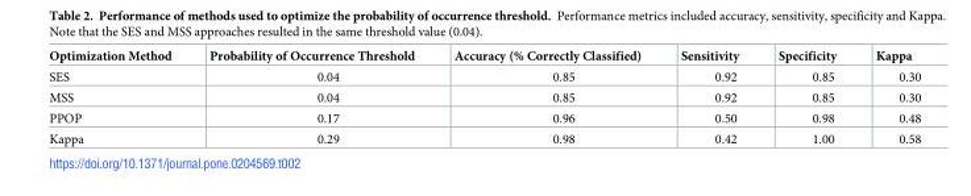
<table><thead><tr><td>Optimization Method</td><td>Probability of Occurrence Threshold</td><td>Accuracy (% Correctly Classified)</td><td>Sensitivity</td><td>Specificity</td><td>Kappa</td></tr></thead><tbody><tr><td>SES</td><td>0.04</td><td>0.85</td><td>0.92</td><td>0.85</td><td>0.30</td></tr><tr><td>MSS</td><td>0.04</td><td>0.85</td><td>0.92</td><td>0.85</td><td>0.30</td></tr><tr><td>PPOP</td><td>0.17</td><td>0.96</td><td>0.50</td><td>0.98</td><td>0.48</td></tr><tr><td>Kappa</td><td>0.29</td><td>0.98</td><td>0.42</td><td>1.00</td><td>0.58</td></tr></tbody></table>